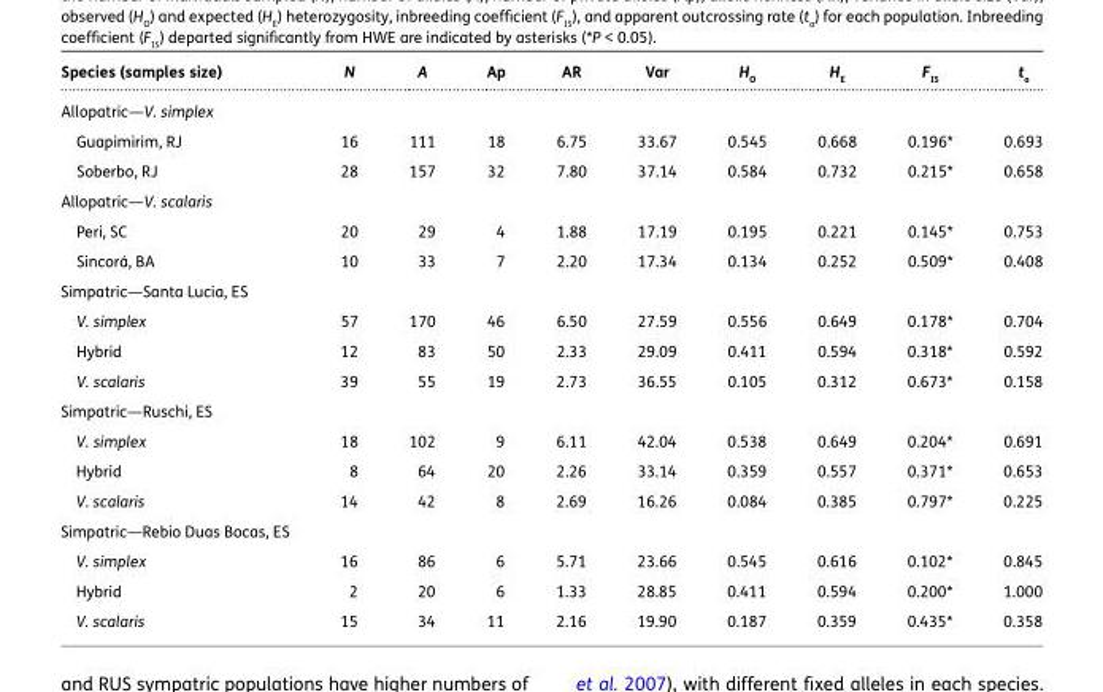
<table><thead><tr><td>Species (samples size)</td><td>N</td><td>A</td><td>Ap</td><td>AR</td><td>Var</td><td>H<sub>O</sub></td><td>H<sub>E</sub></td><td>F<sub>IS</sub></td><td>t<sub>a</sub></td></tr></thead><tbody><tr><td colspan="10">Allopatric—V. simplex</td></tr><tr><td>Guapimirim, RJ</td><td>16</td><td>111</td><td>18</td><td>6.75</td><td>33.67</td><td>0.545</td><td>0.668</td><td>0.196*</td><td>0.693</td></tr><tr><td>Soberbo, RJ</td><td>28</td><td>157</td><td>32</td><td>7.80</td><td>37.14</td><td>0.584</td><td>0.732</td><td>0.215*</td><td>0.658</td></tr><tr><td colspan="10">Allopatric—V. scalaris</td></tr><tr><td>Peri, SC</td><td>20</td><td>29</td><td>4</td><td>1.88</td><td>17.19</td><td>0.195</td><td>0.221</td><td>0.145*</td><td>0.753</td></tr><tr><td>Sincorá, BA</td><td>10</td><td>33</td><td>7</td><td>2.20</td><td>17.34</td><td>0.134</td><td>0.252</td><td>0.509*</td><td>0.408</td></tr><tr><td colspan="10">Simpatric—Santa Lucia, ES</td></tr><tr><td>V. simplex</td><td>57</td><td>170</td><td>46</td><td>6.50</td><td>27.59</td><td>0.556</td><td>0.649</td><td>0.178*</td><td>0.704</td></tr><tr><td>Hybrid</td><td>12</td><td>83</td><td>50</td><td>2.33</td><td>29.09</td><td>0.411</td><td>0.594</td><td>0.318*</td><td>0.592</td></tr><tr><td>V. scalaris</td><td>39</td><td>55</td><td>19</td><td>2.73</td><td>36.55</td><td>0.105</td><td>0.312</td><td>0.673*</td><td>0.158</td></tr><tr><td colspan="10">Simpatric—Ruschi, ES</td></tr><tr><td>V. simplex</td><td>18</td><td>102</td><td>9</td><td>6.11</td><td>42.04</td><td>0.538</td><td>0.649</td><td>0.204*</td><td>0.691</td></tr><tr><td>Hybrid</td><td>8</td><td>64</td><td>20</td><td>2.26</td><td>33.14</td><td>0.359</td><td>0.557</td><td>0.371*</td><td>0.653</td></tr><tr><td>V. scalaris</td><td>14</td><td>42</td><td>8</td><td>2.69</td><td>16.26</td><td>0.084</td><td>0.385</td><td>0.797*</td><td>0.225</td></tr><tr><td colspan="10">Simpatric—Rebio Duas Bocas, ES</td></tr><tr><td>V. simplex</td><td>16</td><td>86</td><td>6</td><td>5.71</td><td>23.66</td><td>0.545</td><td>0.616</td><td>0.102*</td><td>0.845</td></tr><tr><td>Hybrid</td><td>2</td><td>20</td><td>6</td><td>1.33</td><td>28.85</td><td>0.411</td><td>0.594</td><td>0.200*</td><td>1.000</td></tr><tr><td>V. scalaris</td><td>15</td><td>34</td><td>11</td><td>2.16</td><td>19.90</td><td>0.187</td><td>0.359</td><td>0.435*</td><td>0.358</td></tr></tbody></table>